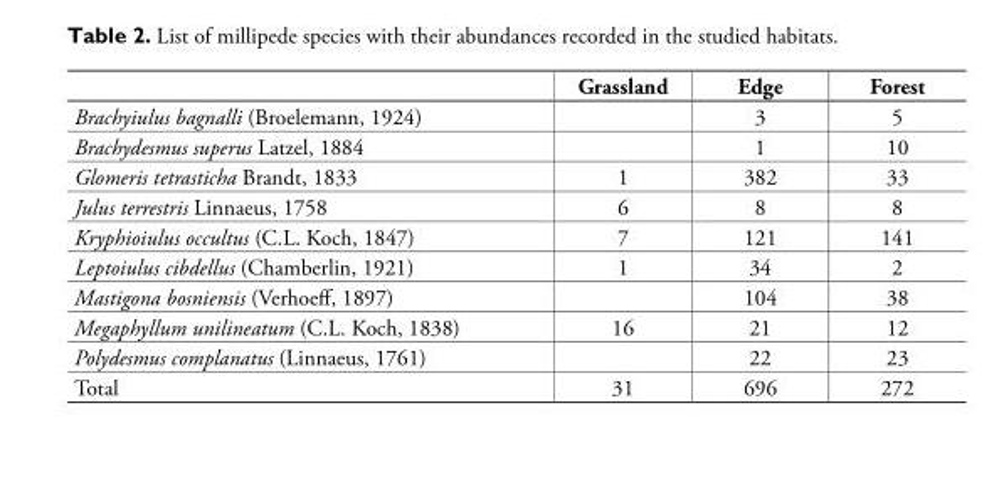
<table><thead><tr><td></td><td>Grassland</td><td>Edge</td><td>Forest</td></tr></thead><tbody><tr><td>Brachyiulus bagnalli (Broelemann, 1924)</td><td></td><td>3</td><td>5</td></tr><tr><td>Brachydesmus superus Latzel, 1884</td><td></td><td>1</td><td>10</td></tr><tr><td>Glomeris tetrasticha Brandt, 1833</td><td>1</td><td>382</td><td>33</td></tr><tr><td>Julus terrestris Linnaeus, 1758</td><td>6</td><td>8</td><td>8</td></tr><tr><td>Kryphioiulus occultus (C.L. Koch, 1847)</td><td>7</td><td>121</td><td>141</td></tr><tr><td>Leptoiulus cibdellus (Chamberlin, 1921)</td><td>1</td><td>34</td><td>2</td></tr><tr><td>Mastigona bosniensis (Verhoeff, 1897)</td><td></td><td>104</td><td>38</td></tr><tr><td>Megaphyllum unilineatum (C.L. Koch, 1838)</td><td>16</td><td>21</td><td>12</td></tr><tr><td>Polydesmus complanatus (Linnaeus, 1761)</td><td></td><td>22</td><td>23</td></tr><tr><td>Total</td><td>31</td><td>696</td><td>272</td></tr></tbody></table>